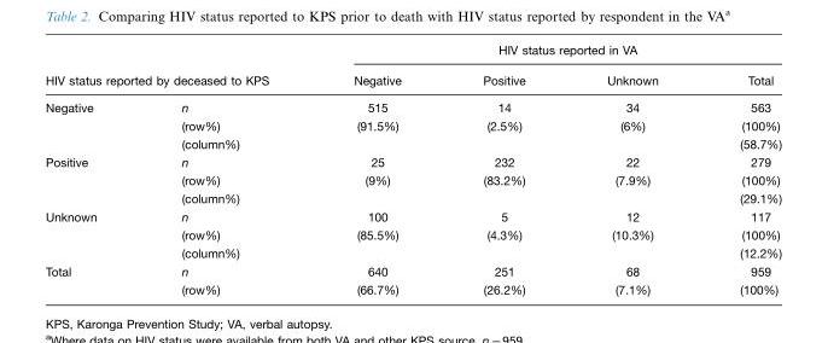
<table><thead><tr><td></td><td></td><td colspan="4">HIV status reported in VA</td></tr><tr><td colspan="2">HIV status reported by deceased to KPS</td><td>Negative</td><td>Positive</td><td>Unknown</td><td>Total</td></tr></thead><tbody><tr><td rowspan="3">Negative</td><td>n</td><td>515</td><td>14</td><td>34</td><td>563</td></tr><tr><td>(row%)</td><td>(91.5%)</td><td>(2.5%)</td><td>(6%)</td><td>(100%)</td></tr><tr><td>(column%)</td><td></td><td></td><td></td><td>(58.7%)</td></tr><tr><td rowspan="3">Positive</td><td>n</td><td>25</td><td>232</td><td>22</td><td>279</td></tr><tr><td>(row%)</td><td>(9%)</td><td>(83.2%)</td><td>(7.9%)</td><td>(100%)</td></tr><tr><td>(column%)</td><td></td><td></td><td></td><td>(29.1%)</td></tr><tr><td rowspan="3">Unknown</td><td>n</td><td>100</td><td>5</td><td>12</td><td>117</td></tr><tr><td>(row%)</td><td>(85.5%)</td><td>(4.3%)</td><td>(10.3%)</td><td>(100%)</td></tr><tr><td>(column%)</td><td></td><td></td><td></td><td>(12.2%)</td></tr><tr><td rowspan="2">Total</td><td>n</td><td>640</td><td>251</td><td>68</td><td>959</td></tr><tr><td>(row%)</td><td>(66.7%)</td><td>(26.2%)</td><td>(7.1%)</td><td>(100%)</td></tr></tbody></table>